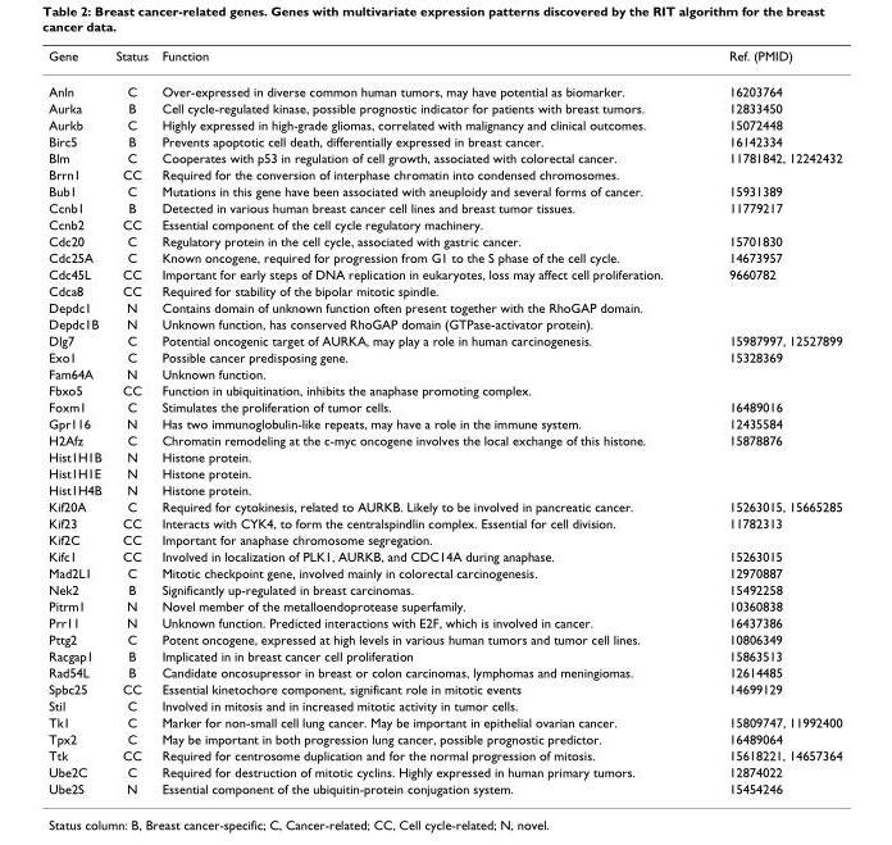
<table><thead><tr><td>Gene</td><td>Status</td><td>Function</td><td>Ref. (PMID)</td></tr></thead><tbody><tr><td>Anln</td><td>C</td><td>Over-expressed in diverse common human tumors, may have potential as biomarker.</td><td>16203764</td></tr><tr><td>Aurka</td><td>B</td><td>Cell cycle-regulated kinase, possible prognostic indicator for patients with breast tumors.</td><td>12833450</td></tr><tr><td>Aurkb</td><td>C</td><td>Highly expressed in high-grade gliomas, correlated with malignancy and clinical outcomes.</td><td>15072448</td></tr><tr><td>Birc5</td><td>B</td><td>Prevents apoptotic cell death, differentially expressed in breast cancer.</td><td>16142334</td></tr><tr><td>Blm</td><td>C</td><td>Cooperates with p53 in regulation of cell growth, associated with colorectal cancer.</td><td>11781842, 12242432</td></tr><tr><td>Brrn1</td><td>CC</td><td>Required for the conversion of interphase chromatin into condensed chromosomes.</td><td></td></tr><tr><td>Bub1</td><td>C</td><td>Mutations in this gene have been associated with aneuploidy and several forms of cancer.</td><td>15931389</td></tr><tr><td>Ccnb1</td><td>B</td><td>Detected in various human breast cancer cell lines and breast tumor tissues.</td><td>11779217</td></tr><tr><td>Ccnb2</td><td>CC</td><td>Essential component of the cell cycle regulatory machinery.</td><td></td></tr><tr><td>Cdc20</td><td>C</td><td>Regulatory protein in the cell cycle, associated with gastric cancer.</td><td>15701830</td></tr><tr><td>Cdc25A</td><td>C</td><td>Known oncogene, required for progression from G1 to the S phase of the cell cycle.</td><td>14673957</td></tr><tr><td>Cdc45L</td><td>CC</td><td>Important for early steps of DNA replication in eukaryotes, loss may affect cell proliferation.</td><td>9660782</td></tr><tr><td>Cdca8</td><td>CC</td><td>Required for stability of the bipolar mitotic spindle.</td><td></td></tr><tr><td>Depdc1</td><td>N</td><td>Contains domain of unknown function often present together with the RhoGAP domain.</td><td></td></tr><tr><td>Depdc1B</td><td>N</td><td>Unknown function, has conserved RhoGAP domain (GTPase-activator protein).</td><td></td></tr><tr><td>Dlg7</td><td>C</td><td>Potential oncogenic target of AURKA, may play a role in human carcinogenesis.</td><td>15987997, 12527899</td></tr><tr><td>Exo1</td><td>C</td><td>Possible cancer predisposing gene.</td><td>15328369</td></tr><tr><td>Fam64A</td><td>N</td><td>Unknown function.</td><td></td></tr><tr><td>Fbxo5</td><td>CC</td><td>Function in ubiquitination, inhibits the anaphase promoting complex.</td><td></td></tr><tr><td>Foxm1</td><td>C</td><td>Stimulates the proliferation of tumor cells.</td><td>16489016</td></tr><tr><td>Gpr116</td><td>N</td><td>Has two immunoglobulin-like repeats, may have a role in the immune system.</td><td>12435584</td></tr><tr><td>H2Afz</td><td>C</td><td>Chromatin remodeling at the c-myc oncogene involves the local exchange of this histone.</td><td>15878876</td></tr><tr><td>Hist1H1B</td><td>N</td><td>Histone protein.</td><td></td></tr><tr><td>Hist1H1E</td><td>N</td><td>Histone protein.</td><td></td></tr><tr><td>Hist1H4B</td><td>N</td><td>Histone protein.</td><td></td></tr><tr><td>Kif20A</td><td>C</td><td>Required for cytokinesis, related to AURKB. Likely to be involved in pancreatic cancer.</td><td>15263015, 15665285</td></tr><tr><td>Kif23</td><td>CC</td><td>Interacts with CYK4, to form the centralspindlin complex. Essential for cell division.</td><td>11782313</td></tr><tr><td>Kif2C</td><td>CC</td><td>Important for anaphase chromosome segregation.</td><td></td></tr><tr><td>Kifc1</td><td>CC</td><td>Involved in localization of PLK1, AURKB, and CDC14A during anaphase.</td><td>15263015</td></tr><tr><td>Mad2L1</td><td>C</td><td>Mitotic checkpoint gene, involved mainly in colorectal carcinogenesis.</td><td>12970887</td></tr><tr><td>Nek2</td><td>B</td><td>Significantly up-regulated in breast carcinomas.</td><td>15492258</td></tr><tr><td>Pitrm1</td><td>N</td><td>Novel member of the metalloendoprotease superfamily.</td><td>10360838</td></tr><tr><td>Prr11</td><td>N</td><td>Unknown function. Predicted interactions with E2F, which is involved in cancer.</td><td>16437386</td></tr><tr><td>Pttg2</td><td>C</td><td>Potent oncogene, expressed at high levels in various human tumors and tumor cell lines.</td><td>10806349</td></tr><tr><td>Racgap1</td><td>B</td><td>Implicated in in breast cancer cell proliferation</td><td>15863513</td></tr><tr><td>Rad54L</td><td>B</td><td>Candidate oncosupressor in breast or colon carcinomas, lymphomas and meningiomas.</td><td>12614485</td></tr><tr><td>Spbc25</td><td>CC</td><td>Essential kinetochore component, significant role in mitotic events</td><td>14699129</td></tr><tr><td>Stil</td><td>C</td><td>Involved in mitosis and in increased mitotic activity in tumor cells.</td><td></td></tr><tr><td>Tk1</td><td>C</td><td>Marker for non-small cell lung cancer. May be important in epithelial ovarian cancer.</td><td>15809747, 11992400</td></tr><tr><td>Tpx2</td><td>C</td><td>May be important in both progression lung cancer, possible prognostic predictor.</td><td>16489064</td></tr><tr><td>Ttk</td><td>CC</td><td>Required for centrosome duplication and for the normal progression of mitosis.</td><td>15618221, 14657364</td></tr><tr><td>Ube2C</td><td>C</td><td>Required for destruction of mitotic cyclins. Highly expressed in human primary tumors.</td><td>12874022</td></tr><tr><td>Ube2S</td><td>N</td><td>Essential component of the ubiquitin-protein conjugation system.</td><td>15454246</td></tr></tbody></table>